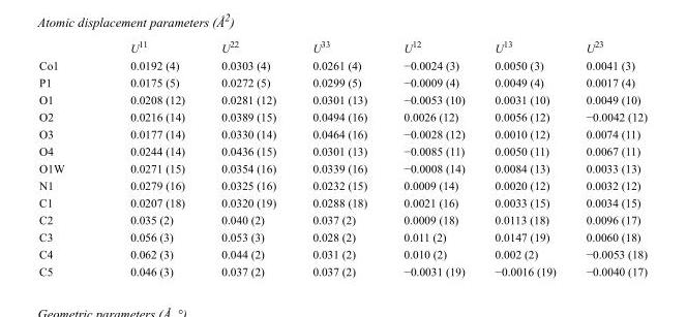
<table><thead><tr><td></td><td>U<sup>11</sup></td><td>U<sup>22</sup></td><td>U<sup>33</sup></td><td>U<sup>12</sup></td><td>U<sup>13</sup></td><td>U<sup>23</sup></td></tr></thead><tbody><tr><td>Co1</td><td>0.0192 (4)</td><td>0.0303 (4)</td><td>0.0261 (4)</td><td>−0.0024 (3)</td><td>0.0050 (3)</td><td>0.0041 (3)</td></tr><tr><td>P1</td><td>0.0175 (5)</td><td>0.0272 (5)</td><td>0.0299 (5)</td><td>−0.0009 (4)</td><td>0.0049 (4)</td><td>0.0017 (4)</td></tr><tr><td>O1</td><td>0.0208 (12)</td><td>0.0281 (12)</td><td>0.0301 (13)</td><td>−0.0053 (10)</td><td>0.0031 (10)</td><td>0.0049 (10)</td></tr><tr><td>O2</td><td>0.0216 (14)</td><td>0.0389 (15)</td><td>0.0494 (16)</td><td>0.0026 (12)</td><td>0.0056 (12)</td><td>−0.0042 (12)</td></tr><tr><td>O3</td><td>0.0177 (14)</td><td>0.0330 (14)</td><td>0.0464 (16)</td><td>−0.0028 (12)</td><td>0.0010 (12)</td><td>0.0074 (11)</td></tr><tr><td>O4</td><td>0.0244 (14)</td><td>0.0436 (15)</td><td>0.0301 (13)</td><td>−0.0085 (11)</td><td>0.0050 (11)</td><td>0.0067 (11)</td></tr><tr><td>O1W</td><td>0.0271 (15)</td><td>0.0354 (16)</td><td>0.0339 (16)</td><td>−0.0008 (14)</td><td>0.0084 (13)</td><td>0.0033 (13)</td></tr><tr><td>N1</td><td>0.0279 (16)</td><td>0.0325 (16)</td><td>0.0232 (15)</td><td>0.0009 (14)</td><td>0.0020 (12)</td><td>0.0032 (12)</td></tr><tr><td>C1</td><td>0.0207 (18)</td><td>0.0320 (19)</td><td>0.0288 (18)</td><td>0.0021 (16)</td><td>0.0033 (15)</td><td>0.0034 (15)</td></tr><tr><td>C2</td><td>0.035 (2)</td><td>0.040 (2)</td><td>0.037 (2)</td><td>0.0009 (18)</td><td>0.0113 (18)</td><td>0.0096 (17)</td></tr><tr><td>C3</td><td>0.056 (3)</td><td>0.053 (3)</td><td>0.028 (2)</td><td>0.011 (2)</td><td>0.0147 (19)</td><td>0.0060 (18)</td></tr><tr><td>C4</td><td>0.062 (3)</td><td>0.044 (2)</td><td>0.031 (2)</td><td>0.010 (2)</td><td>0.002 (2)</td><td>−0.0053 (18)</td></tr><tr><td>C5</td><td>0.046 (3)</td><td>0.037 (2)</td><td>0.037 (2)</td><td>−0.0031 (19)</td><td>−0.0016 (19)</td><td>−0.0040 (17)</td></tr></tbody></table>